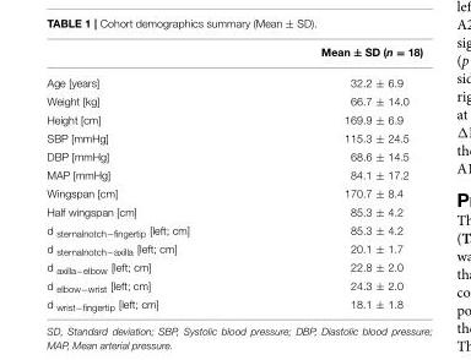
<table><thead><tr><td></td><td>Mean ± SD (n = 18)</td></tr></thead><tbody><tr><td>Age [years]</td><td>32.2 ± 6.9</td></tr><tr><td>Weight [kg]</td><td>66.7 ± 14.0</td></tr><tr><td>Height [cm]</td><td>169.9 ± 6.9</td></tr><tr><td>SBP [mmHg]</td><td>115.3 ± 24.5</td></tr><tr><td>DBP [mmHg]</td><td>68.6 ± 14.5</td></tr><tr><td>MAP [mmHg]</td><td>84.1 ± 17.2</td></tr><tr><td>Wingspan [cm]</td><td>170.7 ± 8.4</td></tr><tr><td>Half wingspan [cm]</td><td>85.3 ± 4.2</td></tr><tr><td>d <sub>sternalnotch−fingertip</sub> [left; cm]</td><td>85.3 ± 4.2</td></tr><tr><td>d <sub>sternalnotch−axilla</sub> [left; cm]</td><td>20.1 ± 1.7</td></tr><tr><td>d <sub>axilla−elbow</sub> [left; cm]</td><td>22.8 ± 2.0</td></tr><tr><td>d <sub>elbow−wrist</sub> [left; cm]</td><td>24.3 ± 2.0</td></tr><tr><td>d <sub>wrist−fingertip</sub> [left; cm]</td><td>18.1 ± 1.8</td></tr></tbody></table>